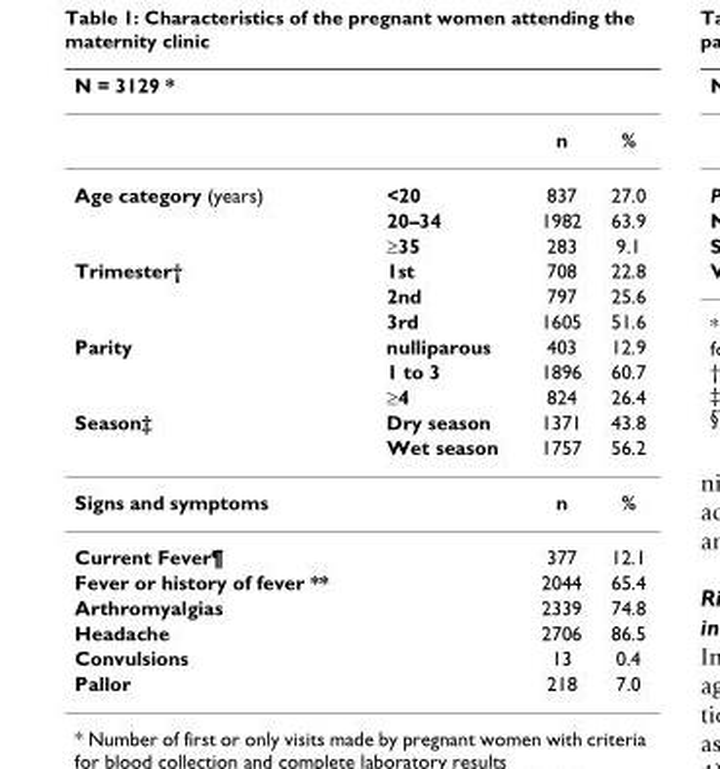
<table><thead><tr><td>N = 3129 *</td><td></td><td></td><td></td></tr></thead><tbody><tr><td></td><td></td><td>n</td><td>%</td></tr><tr><td rowspan="3">Age category (years)</td><td>&lt;20</td><td>837</td><td>27.0</td></tr><tr><td>20–34</td><td>1982</td><td>63.9</td></tr><tr><td>≥35</td><td>283</td><td>9.1</td></tr><tr><td rowspan="3">Trimester†</td><td>1st</td><td>708</td><td>22.8</td></tr><tr><td>2nd</td><td>797</td><td>25.6</td></tr><tr><td>3rd</td><td>1605</td><td>51.6</td></tr><tr><td rowspan="3">Parity</td><td>nulliparous</td><td>403</td><td>12.9</td></tr><tr><td>1 to 3</td><td>1896</td><td>60.7</td></tr><tr><td>≥4</td><td>824</td><td>26.4</td></tr><tr><td rowspan="2">Season‡</td><td>Dry season</td><td>1371</td><td>43.8</td></tr><tr><td>Wet season</td><td>1757</td><td>56.2</td></tr><tr><td>Signs and symptoms</td><td></td><td>n</td><td>%</td></tr><tr><td>Current Fever¶</td><td></td><td>377</td><td>12.1</td></tr><tr><td>Fever or history of fever **</td><td></td><td>2044</td><td>65.4</td></tr><tr><td>Arthromyalgias</td><td></td><td>2339</td><td>74.8</td></tr><tr><td>Headache</td><td></td><td>2706</td><td>86.5</td></tr><tr><td>Convulsions</td><td></td><td>13</td><td>0.4</td></tr><tr><td>Pallor</td><td></td><td>218</td><td>7.0</td></tr></tbody></table>